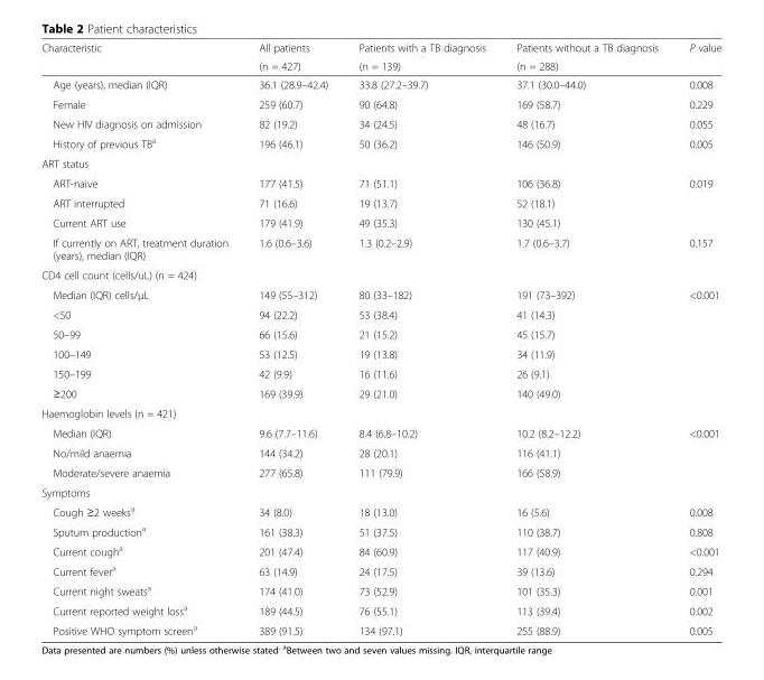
<table><thead><tr><td rowspan="2">Characteristic</td><td rowspan="2">All patients (n = 427)</td><td rowspan="2">Patients with a TB diagnosis (n = 139)</td><td rowspan="2">Patients without a TB diagnosis (n = 288)</td><td rowspan="2">P value</td></tr><tr></tr></thead><tbody><tr><td>Age (years), median (IQR)</td><td>36.1 (28.9–42.4)</td><td>33.8 (27.2–39.7)</td><td>37.1 (30.0–44.0)</td><td>0.008</td></tr><tr><td>Female</td><td>259 (60.7)</td><td>90 (64.8)</td><td>169 (58.7)</td><td>0.229</td></tr><tr><td>New HIV diagnosis on admission</td><td>82 (19.2)</td><td>34 (24.5)</td><td>48 (16.7)</td><td>0.055</td></tr><tr><td>History of previous TB<sup>a</sup></td><td>196 (46.1)</td><td>50 (36.2)</td><td>146 (50.9)</td><td>0.005</td></tr><tr><td colspan="5">ART status</td></tr><tr><td>ART-naive</td><td>177 (41.5)</td><td>71 (51.1)</td><td>106 (36.8)</td><td>0.019</td></tr><tr><td>ART interrupted</td><td>71 (16.6)</td><td>19 (13.7)</td><td>52 (18.1)</td><td></td></tr><tr><td>Current ART use</td><td>179 (41.9)</td><td>49 (35.3)</td><td>130 (45.1)</td><td></td></tr><tr><td>If currently on ART, treatment duration (years), median (IQR)</td><td>1.6 (0.6–3.6)</td><td>1.3 (0.2–2.9)</td><td>1.7 (0.6–3.7)</td><td>0.157</td></tr><tr><td colspan="5">CD4 cell count (cells/uL) (n = 424)</td></tr><tr><td>Median (IQR) cells/μL</td><td>149 (55–312)</td><td>80 (33–182)</td><td>191 (73–392)</td><td>&lt;0.001</td></tr><tr><td>&lt;50</td><td>94 (22.2)</td><td>53 (38.4)</td><td>41 (14.3)</td><td></td></tr><tr><td>50–99</td><td>66 (15.6)</td><td>21 (15.2)</td><td>45 (15.7)</td><td></td></tr><tr><td>100–149</td><td>53 (12.5)</td><td>19 (13.8)</td><td>34 (11.9)</td><td></td></tr><tr><td>150–199</td><td>42 (9.9)</td><td>16 (11.6)</td><td>26 (9.1)</td><td></td></tr><tr><td>≥200</td><td>169 (39.9)</td><td>29 (21.0)</td><td>140 (49.0)</td><td></td></tr><tr><td colspan="5">Haemoglobin levels (n = 421)</td></tr><tr><td>Median (IQR)</td><td>9.6 (7.7–11.6)</td><td>8.4 (6.8–10.2)</td><td>10.2 (8.2–12.2)</td><td>&lt;0.001</td></tr><tr><td>No/mild anaemia</td><td>144 (34.2)</td><td>28 (20.1)</td><td>116 (41.1)</td><td></td></tr><tr><td>Moderate/severe anaemia</td><td>277 (65.8)</td><td>111 (79.9)</td><td>166 (58.9)</td><td></td></tr><tr><td colspan="5">Symptoms</td></tr><tr><td>Cough ≥2 weeks<sup>a</sup></td><td>34 (8.0)</td><td>18 (13.0)</td><td>16 (5.6)</td><td>0.008</td></tr><tr><td>Sputum production<sup>a</sup></td><td>161 (38.3)</td><td>51 (37.5)</td><td>110 (38.7)</td><td>0.808</td></tr><tr><td>Current cough<sup>a</sup></td><td>201 (47.4)</td><td>84 (60.9)</td><td>117 (40.9)</td><td>&lt;0.001</td></tr><tr><td>Current fever<sup>a</sup></td><td>63 (14.9)</td><td>24 (17.5)</td><td>39 (13.6)</td><td>0.294</td></tr><tr><td>Current night sweats<sup>a</sup></td><td>174 (41.0)</td><td>73 (52.9)</td><td>101 (35.3)</td><td>0.001</td></tr><tr><td>Current reported weight loss<sup>a</sup></td><td>189 (44.5)</td><td>76 (55.1)</td><td>113 (39.4)</td><td>0.002</td></tr><tr><td>Positive WHO symptom screen<sup>a</sup></td><td>389 (91.5)</td><td>134 (97.1)</td><td>255 (88.9)</td><td>0.005</td></tr></tbody></table>